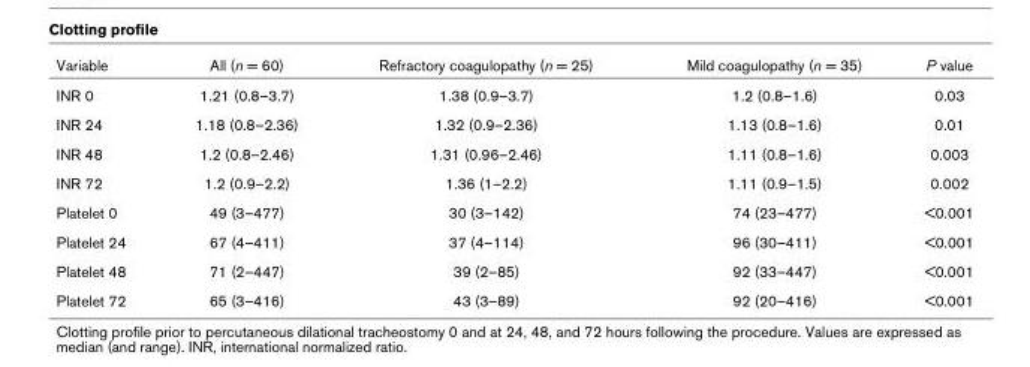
<table><thead><tr><td>Variable</td><td>All (n = 60)</td><td>Refractory coagulopathy (n = 25)</td><td>Mild coagulopathy (n = 35)</td><td>P value</td></tr></thead><tbody><tr><td>INR 0</td><td>1.21 (0.8–3.7)</td><td>1.38 (0.9–3.7)</td><td>1.2 (0.8–1.6)</td><td>0.03</td></tr><tr><td>INR 24</td><td>1.18 (0.8–2.36)</td><td>1.32 (0.9–2.36)</td><td>1.13 (0.8–1.6)</td><td>0.01</td></tr><tr><td>INR 48</td><td>1.2 (0.8–2.46)</td><td>1.31 (0.96–2.46)</td><td>1.11 (0.8–1.6)</td><td>0.003</td></tr><tr><td>INR 72</td><td>1.2 (0.9–2.2)</td><td>1.36 (1–2.2)</td><td>1.11 (0.9–1.5)</td><td>0.002</td></tr><tr><td>Platelet 0</td><td>49 (3–477)</td><td>30 (3–142)</td><td>74 (23–477)</td><td>&lt;0.001</td></tr><tr><td>Platelet 24</td><td>67 (4–411)</td><td>37 (4–114)</td><td>96 (30–411)</td><td>&lt;0.001</td></tr><tr><td>Platelet 48</td><td>71 (2–447)</td><td>39 (2–85)</td><td>92 (33–447)</td><td>&lt;0.001</td></tr><tr><td>Platelet 72</td><td>65 (3–416)</td><td>43 (3–89)</td><td>92 (20–416)</td><td>&lt;0.001</td></tr></tbody></table>